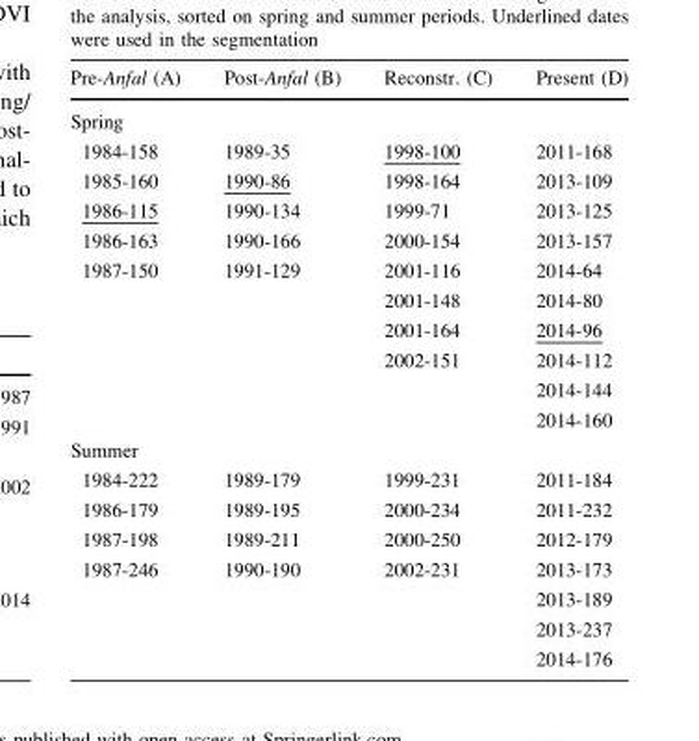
<table><thead><tr><td>Pre-Anfal (A)</td><td>Post-Anfal (B)</td><td>Reconstr. (C)</td><td>Present (D)</td></tr></thead><tbody><tr><td colspan="4">Spring</td></tr><tr><td>1984-158</td><td>1989-35</td><td>1998-100</td><td>2011-168</td></tr><tr><td>1985-160</td><td>1990-86</td><td>1998-164</td><td>2013-109</td></tr><tr><td>1986-115</td><td>1990-134</td><td>1999-71</td><td>2013-125</td></tr><tr><td>1986-163</td><td>1990-166</td><td>2000-154</td><td>2013-157</td></tr><tr><td rowspan="6">1987-150</td><td rowspan="6">1991-129</td><td>2001-116</td><td>2014-64</td></tr><tr><td>2001-148</td><td>2014-80</td></tr><tr><td>2001-164</td><td>2014-96</td></tr><tr><td rowspan="3">2002-151</td><td>2014-112</td></tr><tr><td>2014-144</td></tr><tr><td>2014-160</td></tr><tr><td colspan="4">Summer</td></tr><tr><td>1984-222</td><td>1989-179</td><td>1999-231</td><td>2011-184</td></tr><tr><td>1986-179</td><td>1989-195</td><td>2000-234</td><td>2011-232</td></tr><tr><td>1987-198</td><td>1989-211</td><td>2000-250</td><td>2012-179</td></tr><tr><td rowspan="4">1987-246</td><td rowspan="4">1990-190</td><td rowspan="4">2002-231</td><td>2013-173</td></tr><tr><td>2013-189</td></tr><tr><td>2013-237</td></tr><tr><td>2014-176</td></tr></tbody></table>